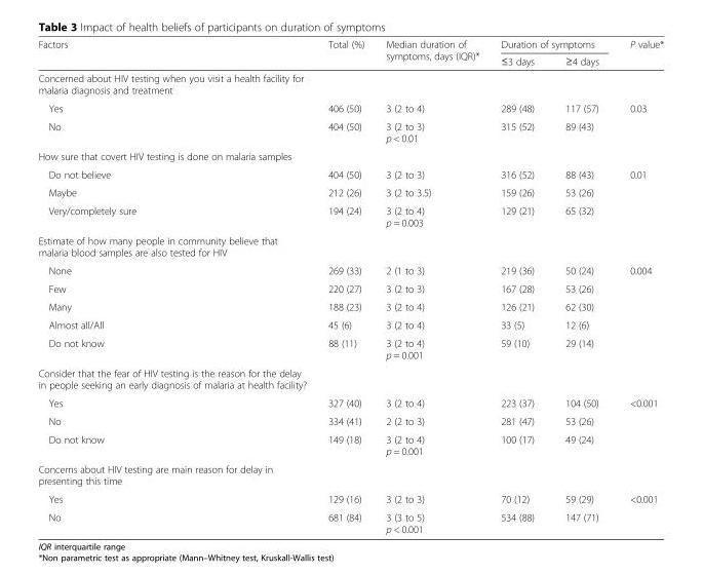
<table><thead><tr><td rowspan="2">Factors</td><td rowspan="2">Total (%)</td><td rowspan="2">Median duration of symptoms, days (IQR)*</td><td colspan="2">Duration of symptoms</td><td rowspan="2">P value*</td></tr><tr><td>≤3 days</td><td>≥4 days</td></tr></thead><tbody><tr><td colspan="6">Concerned about HIV testing when you visit a health facility for malaria diagnosis and treatment</td></tr><tr><td>Yes</td><td>406 (50)</td><td>3 (2 to 4)</td><td>289 (48)</td><td>117 (57)</td><td rowspan="2">0.03</td></tr><tr><td>No</td><td>404 (50)</td><td>3 (2 to 3) p &lt; 0.01</td><td>315 (52)</td><td>89 (43)</td></tr><tr><td colspan="6">How sure that covert HIV testing is done on malaria samples</td></tr><tr><td>Do not believe</td><td>404 (50)</td><td>3 (2 to 3)</td><td>316 (52)</td><td>88 (43)</td><td rowspan="3">0.01</td></tr><tr><td>Maybe</td><td>212 (26)</td><td>3 (2 to 3.5)</td><td>159 (26)</td><td>53 (26)</td></tr><tr><td>Very/completely sure</td><td>194 (24)</td><td>3 (2 to 4) p = 0.003</td><td>129 (21)</td><td>65 (32)</td></tr><tr><td colspan="6">Estimate of how many people in community believe that malaria blood samples are also tested for HIV</td></tr><tr><td>None</td><td>269 (33)</td><td>2 (1 to 3)</td><td>219 (36)</td><td>50 (24)</td><td rowspan="5">0.004</td></tr><tr><td>Few</td><td>220 (27)</td><td>3 (2 to 3)</td><td>167 (28)</td><td>53 (26)</td></tr><tr><td>Many</td><td>188 (23)</td><td>3 (2 to 4)</td><td>126 (21)</td><td>62 (30)</td></tr><tr><td>Almost all/All</td><td>45 (6)</td><td>3 (2 to 4)</td><td>33 (5)</td><td>12 (6)</td></tr><tr><td>Do not know</td><td>88 (11)</td><td>3 (2 to 4) p = 0.001</td><td>59 (10)</td><td>29 (14)</td></tr><tr><td colspan="6">Consider that the fear of HIV testing is the reason for the delay in people seeking an early diagnosis of malaria at health facility?</td></tr><tr><td>Yes</td><td>327 (40)</td><td>3 (2 to 4)</td><td>223 (37)</td><td>104 (50)</td><td rowspan="3">&lt;0.001</td></tr><tr><td>No</td><td>334 (41)</td><td>2 (2 to 3)</td><td>281 (47)</td><td>53 (26)</td></tr><tr><td>Do not know</td><td>149 (18)</td><td>3 (2 to 4) p = 0.001</td><td>100 (17)</td><td>49 (24)</td></tr><tr><td colspan="6">Concerns about HIV testing are main reason for delay in presenting this time</td></tr><tr><td>Yes</td><td>129 (16)</td><td>3 (2 to 3)</td><td>70 (12)</td><td>59 (29)</td><td rowspan="2">&lt;0.001</td></tr><tr><td>No</td><td>681 (84)</td><td>3 (3 to 5) p &lt; 0.001</td><td>534 (88)</td><td>147 (71)</td></tr></tbody></table>